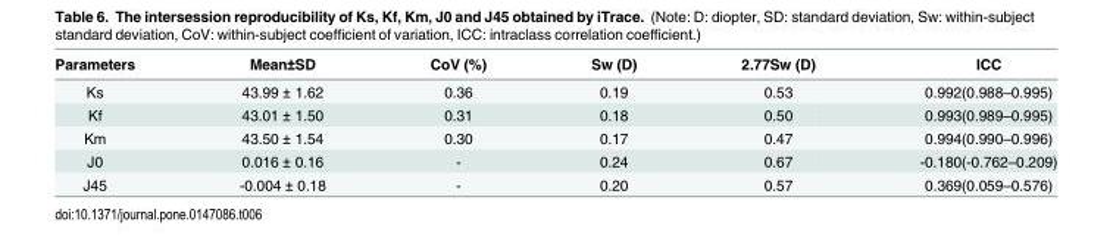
<table><thead><tr><td>Parameters</td><td>Mean±SD</td><td>CoV (%)</td><td>Sw (D)</td><td>2.77Sw (D)</td><td>ICC</td></tr></thead><tbody><tr><td>Ks</td><td>43.99 ± 1.62</td><td>0.36</td><td>0.19</td><td>0.53</td><td>0.992(0.988–0.995)</td></tr><tr><td>Kf</td><td>43.01 ± 1.50</td><td>0.31</td><td>0.18</td><td>0.50</td><td>0.993(0.989–0.995)</td></tr><tr><td>Km</td><td>43.50 ± 1.54</td><td>0.30</td><td>0.17</td><td>0.47</td><td>0.994(0.990–0.996)</td></tr><tr><td>J0</td><td>0.016 ± 0.16</td><td>-</td><td>0.24</td><td>0.67</td><td>-0.180(-0.762–0.209)</td></tr><tr><td>J45</td><td>-0.004 ± 0.18</td><td>-</td><td>0.20</td><td>0.57</td><td>0.369(0.059–0.576)</td></tr></tbody></table>